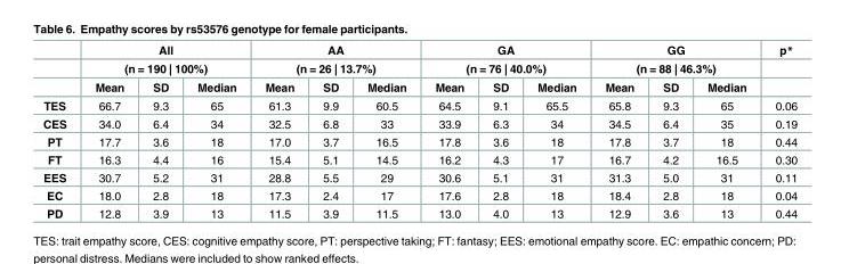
<table><thead><tr><td rowspan="3"></td><td rowspan="2" colspan="3">All (n = 190 | 100%)</td><td rowspan="2" colspan="3">AA (n = 26 | 13.7%)</td><td rowspan="2" colspan="3">GA (n = 76 | 40.0%)</td><td rowspan="2" colspan="3">GG (n = 88 | 46.3%)</td><td rowspan="3">p*</td></tr><tr></tr><tr><td>Mean</td><td>SD</td><td>Median</td><td>Mean</td><td>SD</td><td>Median</td><td>Mean</td><td>SD</td><td>Median</td><td>Mean</td><td>SD</td><td>Median</td></tr></thead><tbody><tr><td>TES</td><td>66.7</td><td>9.3</td><td>65</td><td>61.3</td><td>9.9</td><td>60.5</td><td>64.5</td><td>9.1</td><td>65.5</td><td>65.8</td><td>9.3</td><td>65</td><td>0.06</td></tr><tr><td>CES</td><td>34.0</td><td>6.4</td><td>34</td><td>32.5</td><td>6.8</td><td>33</td><td>33.9</td><td>6.3</td><td>34</td><td>34.5</td><td>6.4</td><td>35</td><td>0.19</td></tr><tr><td>PT</td><td>17.7</td><td>3.6</td><td>18</td><td>17.0</td><td>3.7</td><td>16.5</td><td>17.8</td><td>3.6</td><td>18</td><td>17.8</td><td>3.7</td><td>18</td><td>0.44</td></tr><tr><td>FT</td><td>16.3</td><td>4.4</td><td>16</td><td>15.4</td><td>5.1</td><td>14.5</td><td>16.2</td><td>4.3</td><td>17</td><td>16.7</td><td>4.2</td><td>16.5</td><td>0.30</td></tr><tr><td>EES</td><td>30.7</td><td>5.2</td><td>31</td><td>28.8</td><td>5.5</td><td>29</td><td>30.6</td><td>5.1</td><td>31</td><td>31.3</td><td>5.0</td><td>31</td><td>0.11</td></tr><tr><td>EC</td><td>18.0</td><td>2.8</td><td>18</td><td>17.3</td><td>2.4</td><td>17</td><td>17.6</td><td>2.8</td><td>18</td><td>18.4</td><td>2.8</td><td>18</td><td>0.04</td></tr><tr><td>PD</td><td>12.8</td><td>3.9</td><td>13</td><td>11.5</td><td>3.9</td><td>11.5</td><td>13.0</td><td>4.0</td><td>13</td><td>12.9</td><td>3.6</td><td>13</td><td>0.44</td></tr></tbody></table>